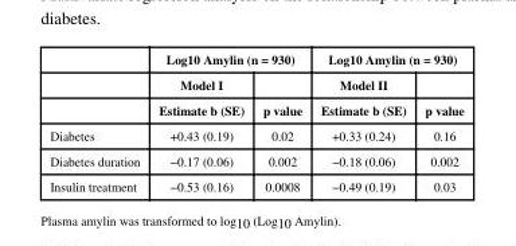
<table><thead><tr><td rowspan="3"></td><td colspan="2">Log10 Amylin (n = 930)</td><td colspan="2">Log10 Amylin (n = 930)</td></tr><tr><td rowspan="2">Model I Estimate b (SE)</td><td rowspan="2">p value</td><td rowspan="2">Model II Estimate b (SE)</td><td rowspan="2">p value</td></tr><tr></tr></thead><tbody><tr><td>Diabetes</td><td>+0.43 (0.19)</td><td>0.02</td><td>+0.33 (0.24)</td><td>0.16</td></tr><tr><td>Diabetes duration</td><td>−0.17 (0.06)</td><td>0.002</td><td>−0.18 (0.06)</td><td>0.002</td></tr><tr><td>Insulin treatment</td><td>−0.53 (0.16)</td><td>0.0008</td><td>−0.49 (0.19)</td><td>0.03</td></tr></tbody></table>